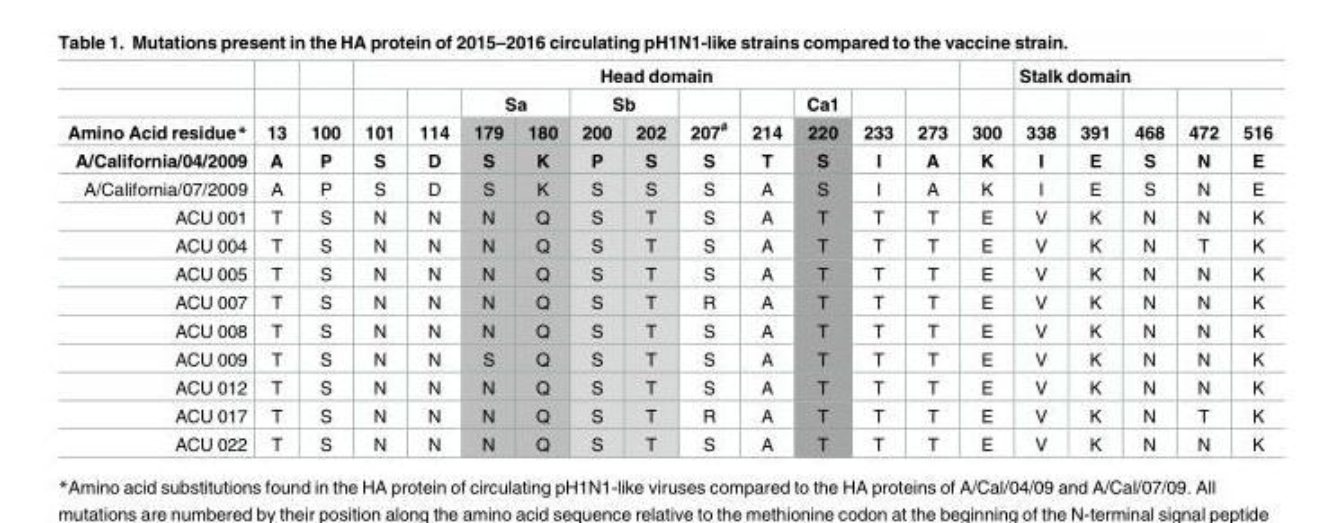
<table><thead><tr><td rowspan="4">Amino Acid residue* A/California/04/2009</td><td rowspan="4">13 A</td><td rowspan="4">100 P</td><td colspan="11">Head domain</td><td rowspan="4">300 K</td><td rowspan="2" colspan="5">Stalk domain</td></tr><tr><td rowspan="3">101 S</td><td rowspan="3">114 D</td><td colspan="2">Sa</td><td colspan="2">Sb</td><td rowspan="3">207<sup>#</sup> S</td><td rowspan="3">214 T</td><td rowspan="3">Ca1 220 S</td><td rowspan="3">233 I</td><td rowspan="3">273 A</td></tr><tr><td rowspan="2">179 S</td><td rowspan="2">180 K</td><td rowspan="2">200 P</td><td rowspan="2">202 S</td><td rowspan="2">338 I</td><td rowspan="2">391 E</td><td rowspan="2">468 S</td><td rowspan="2">472 N</td><td rowspan="2">516 E</td></tr><tr></tr></thead><tbody><tr><td>A/California/07/2009</td><td>A</td><td>P</td><td>S</td><td>D</td><td>S</td><td>K</td><td>S</td><td>S</td><td>S</td><td>A</td><td>S</td><td>I</td><td>A</td><td>K</td><td>I</td><td>E</td><td>S</td><td>N</td><td>E</td></tr><tr><td>ACU 001</td><td>T</td><td>S</td><td>N</td><td>N</td><td>N</td><td>Q</td><td>S</td><td>T</td><td>S</td><td>A</td><td>T</td><td>T</td><td>T</td><td>E</td><td>V</td><td>K</td><td>N</td><td>N</td><td>K</td></tr><tr><td>ACU 004</td><td>T</td><td>S</td><td>N</td><td>N</td><td>N</td><td>Q</td><td>S</td><td>T</td><td>S</td><td>A</td><td>T</td><td>T</td><td>T</td><td>E</td><td>V</td><td>K</td><td>N</td><td>T</td><td>K</td></tr><tr><td>ACU 005</td><td>T</td><td>S</td><td>N</td><td>N</td><td>N</td><td>Q</td><td>S</td><td>T</td><td>S</td><td>A</td><td>T</td><td>T</td><td>T</td><td>E</td><td>V</td><td>K</td><td>N</td><td>N</td><td>K</td></tr><tr><td>ACU 007</td><td>T</td><td>S</td><td>N</td><td>N</td><td>N</td><td>Q</td><td>S</td><td>T</td><td>R</td><td>A</td><td>T</td><td>T</td><td>T</td><td>E</td><td>V</td><td>K</td><td>N</td><td>N</td><td>K</td></tr><tr><td>ACU 008</td><td>T</td><td>S</td><td>N</td><td>N</td><td>N</td><td>Q</td><td>S</td><td>T</td><td>S</td><td>A</td><td>T</td><td>T</td><td>T</td><td>E</td><td>V</td><td>K</td><td>N</td><td>N</td><td>K</td></tr><tr><td>ACU 009</td><td>T</td><td>S</td><td>N</td><td>N</td><td>S</td><td>Q</td><td>S</td><td>T</td><td>S</td><td>A</td><td>T</td><td>T</td><td>T</td><td>E</td><td>V</td><td>K</td><td>N</td><td>N</td><td>K</td></tr><tr><td>ACU 012</td><td>T</td><td>S</td><td>N</td><td>N</td><td>N</td><td>Q</td><td>S</td><td>T</td><td>S</td><td>A</td><td>T</td><td>T</td><td>T</td><td>E</td><td>V</td><td>K</td><td>N</td><td>N</td><td>K</td></tr><tr><td>ACU 017</td><td>T</td><td>S</td><td>N</td><td>N</td><td>N</td><td>Q</td><td>S</td><td>T</td><td>R</td><td>A</td><td>T</td><td>T</td><td>T</td><td>E</td><td>V</td><td>K</td><td>N</td><td>T</td><td>K</td></tr><tr><td>ACU 022</td><td>T</td><td>S</td><td>N</td><td>N</td><td>N</td><td>Q</td><td>S</td><td>T</td><td>S</td><td>A</td><td>T</td><td>T</td><td>T</td><td>E</td><td>V</td><td>K</td><td>N</td><td>N</td><td>K</td></tr></tbody></table>